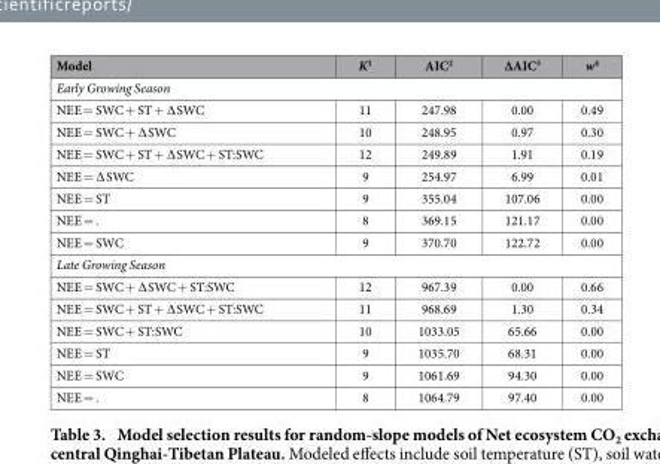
<table><thead><tr><td>Model</td><td>K<sup>1</sup></td><td>AIC<sup>2</sup></td><td>ΔAIC<sup>3</sup></td><td>w<sup>4</sup></td></tr></thead><tbody><tr><td colspan="5">Early Growing Season</td></tr><tr><td>NEE = SWC + ST + ∆ SWC</td><td>11</td><td>247.98</td><td>0.00</td><td>0.49</td></tr><tr><td>NEE = SWC + ∆ SWC</td><td>10</td><td>248.95</td><td>0.97</td><td>0.30</td></tr><tr><td>NEE = SWC + ST + ∆ SWC + ST:SWC</td><td>12</td><td>249.89</td><td>1.91</td><td>0.19</td></tr><tr><td>NEE = ∆ SWC</td><td>9</td><td>254.97</td><td>6.99</td><td>0.01</td></tr><tr><td>NEE = ST</td><td>9</td><td>355.04</td><td>107.06</td><td>0.00</td></tr><tr><td>NEE = .</td><td>8</td><td>369.15</td><td>121.17</td><td>0.00</td></tr><tr><td>NEE = SWC</td><td>9</td><td>370.70</td><td>122.72</td><td>0.00</td></tr><tr><td colspan="5">Late Growing Season</td></tr><tr><td>NEE = SWC + ∆ SWC + ST:SWC</td><td>12</td><td>967.39</td><td>0.00</td><td>0.66</td></tr><tr><td>NEE = SWC + ST + ∆ SWC + ST:SWC</td><td>11</td><td>968.69</td><td>1.30</td><td>0.34</td></tr><tr><td>NEE = SWC + ST:SWC</td><td>10</td><td>1033.05</td><td>65.66</td><td>0.00</td></tr><tr><td>NEE = ST</td><td>9</td><td>1035.70</td><td>68.31</td><td>0.00</td></tr><tr><td>NEE = SWC</td><td>9</td><td>1061.69</td><td>94.30</td><td>0.00</td></tr><tr><td>NEE = .</td><td>8</td><td>1064.79</td><td>97.40</td><td>0.00</td></tr></tbody></table>